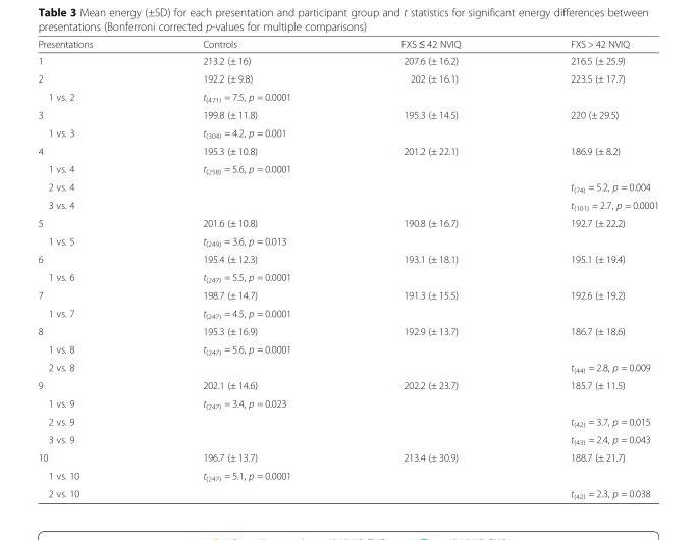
<table><thead><tr><td>Presentations</td><td>Controls</td><td>FXS ≤ 42 NVIQ</td><td>FXS &gt; 42 NVIQ</td></tr></thead><tbody><tr><td>1</td><td>213.2 (± 16)</td><td>207.6 (± 16.2)</td><td>216.5 (± 25.9)</td></tr><tr><td>2</td><td>192.2 (± 9.8)</td><td>202 (± 16.1)</td><td>223.5 (± 17.7)</td></tr><tr><td>1 vs. 2</td><td>t<sub>(471)</sub> = 7.5, p = 0.0001</td><td></td><td></td></tr><tr><td>3</td><td>199.8 (± 11.8)</td><td>195.3 (± 14.5)</td><td>220 (± 29.5)</td></tr><tr><td>1 vs. 3</td><td>t<sub>(304)</sub> = 4.2, p = 0.001</td><td></td><td></td></tr><tr><td>4</td><td>195.3 (± 10.8)</td><td>201.2 (± 22.1)</td><td>186.9 (± 8.2)</td></tr><tr><td>1 vs. 4</td><td>t<sub>(258)</sub> = 5.6, p = 0.0001</td><td></td><td></td></tr><tr><td>2 vs. 4</td><td></td><td></td><td>t<sub>(74)</sub> = 5.2, p = 0.004</td></tr><tr><td>3 vs. 4</td><td></td><td></td><td>t<sub>(101)</sub> = 2.7, p = 0.0001</td></tr><tr><td>5</td><td>201.6 (± 10.8)</td><td>190.8 (± 16.7)</td><td>192.7 (± 22.2)</td></tr><tr><td>1 vs. 5</td><td>t<sub>(249)</sub> = 3.6, p = 0.013</td><td></td><td></td></tr><tr><td>6</td><td>195.4 (± 12.3)</td><td>193.1 (± 18.1)</td><td>195.1 (± 19.4)</td></tr><tr><td>1 vs. 6</td><td>t<sub>(247)</sub> = 5.5, p = 0.0001</td><td></td><td></td></tr><tr><td>7</td><td>198.7 (± 14.7)</td><td>191.3 (± 15.5)</td><td>192.6 (± 19.2)</td></tr><tr><td>1 vs. 7</td><td>t<sub>(247)</sub> = 4.5, p = 0.0001</td><td></td><td></td></tr><tr><td>8</td><td>195.3 (± 16.9)</td><td>192.9 (± 13.7)</td><td>186.7 (± 18.6)</td></tr><tr><td>1 vs. 8</td><td>t<sub>(247)</sub> = 5.6, p = 0.0001</td><td></td><td></td></tr><tr><td>2 vs. 8</td><td></td><td></td><td>t<sub>(44)</sub> = 2.8, p = 0.009</td></tr><tr><td>9</td><td>202.1 (± 14.6)</td><td>202.2 (± 23.7)</td><td>185.7 (± 11.5)</td></tr><tr><td>1 vs. 9</td><td>t<sub>(247)</sub> = 3.4, p = 0.023</td><td></td><td></td></tr><tr><td>2 vs. 9</td><td></td><td></td><td>t<sub>(42)</sub> = 3.7, p = 0.015</td></tr><tr><td>3 vs. 9</td><td></td><td></td><td>t<sub>(43)</sub> = 2.4, p = 0.043</td></tr><tr><td>10</td><td>196.7 (± 13.7)</td><td>213.4 (± 30.9)</td><td>188.7 (± 21.7)</td></tr><tr><td>1 vs. 10</td><td>t<sub>(247)</sub> = 5.1, p = 0.0001</td><td></td><td></td></tr><tr><td>2 vs. 10</td><td></td><td></td><td>t<sub>(42)</sub> = 2.3, p = 0.038</td></tr></tbody></table>